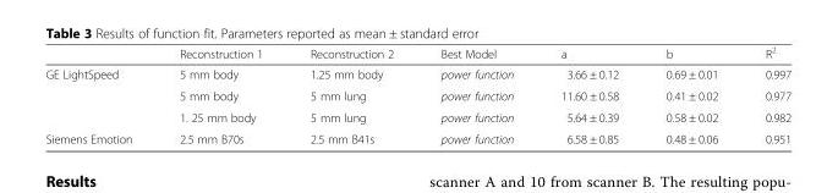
<table><thead><tr><td></td><td>Reconstruction 1</td><td>Reconstruction 2</td><td>Best Model</td><td>a</td><td>b</td><td>R<sup>2</sup></td></tr></thead><tbody><tr><td rowspan="3">GE LightSpeed</td><td>5 mm body</td><td>1.25 mm body</td><td>power function</td><td>3.66 ± 0.12</td><td>0.69 ± 0.01</td><td>0.997</td></tr><tr><td>5 mm body</td><td>5 mm lung</td><td>power function</td><td>11.60 ± 0.58</td><td>0.41 ± 0.02</td><td>0.977</td></tr><tr><td>1. 25 mm body</td><td>5 mm lung</td><td>power function</td><td>5.64 ± 0.39</td><td>0.58 ± 0.02</td><td>0.982</td></tr><tr><td>Siemens Emotion</td><td>2.5 mm B70s</td><td>2.5 mm B41s</td><td>power function</td><td>6.58 ± 0.85</td><td>0.48 ± 0.06</td><td>0.951</td></tr></tbody></table>